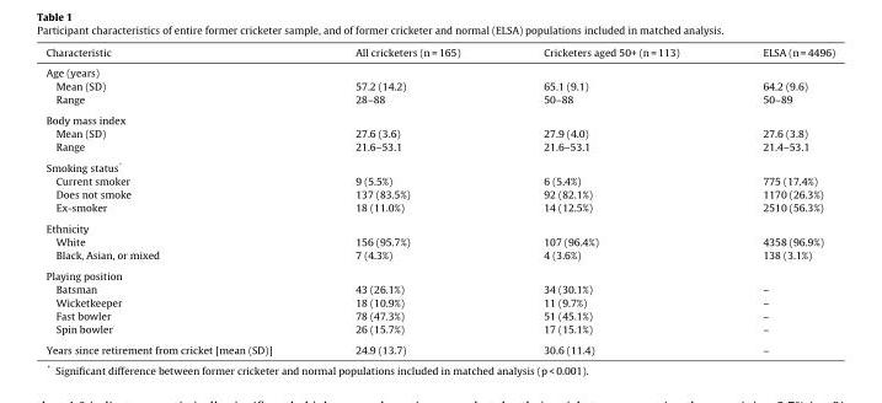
<table><thead><tr><td>Characteristic</td><td>All cricketers (n = 165)</td><td>Cricketers aged 50+ (n = 113)</td><td>ELSA (n = 4496)</td></tr></thead><tbody><tr><td colspan="4">Age (years)</td></tr><tr><td>Mean (SD)</td><td>57.2 (14.2)</td><td>65.1 (9.1)</td><td>64.2 (9.6)</td></tr><tr><td>Range</td><td>28–88</td><td>50–88</td><td>50–89</td></tr><tr><td colspan="4">Body mass index</td></tr><tr><td>Mean (SD)</td><td>27.6 (3.6)</td><td>27.9 (4.0)</td><td>27.6 (3.8)</td></tr><tr><td>Range</td><td>21.6–53.1</td><td>21.6–53.1</td><td>21.4–53.1</td></tr><tr><td colspan="4">Smoking status*</td></tr><tr><td>Current smoker</td><td>9 (5.5%)</td><td>6 (5.4%)</td><td>775 (17.4%)</td></tr><tr><td>Does not smoke</td><td>137 (83.5%)</td><td>92 (82.1%)</td><td>1170 (26.3%)</td></tr><tr><td>Ex-smoker</td><td>18 (11.0%)</td><td>14 (12.5%)</td><td>2510 (56.3%)</td></tr><tr><td colspan="4">Ethnicity</td></tr><tr><td>White</td><td>156 (95.7%)</td><td>107 (96.4%)</td><td>4358 (96.9%)</td></tr><tr><td>Black, Asian, or mixed</td><td>7 (4.3%)</td><td>4 (3.6%)</td><td>138 (3.1%)</td></tr><tr><td colspan="4">Playing position</td></tr><tr><td>Batsman</td><td>43 (26.1%)</td><td>34 (30.1%)</td><td>–</td></tr><tr><td>Wicketkeeper</td><td>18 (10.9%)</td><td>11 (9.7%)</td><td>–</td></tr><tr><td>Fast bowler</td><td>78 (47.3%)</td><td>51 (45.1%)</td><td>–</td></tr><tr><td>Spin bowler</td><td>26 (15.7%)</td><td>17 (15.1%)</td><td>–</td></tr><tr><td>Years since retirement from cricket [mean (SD)]</td><td>24.9 (13.7)</td><td>30.6 (11.4)</td><td>–</td></tr></tbody></table>